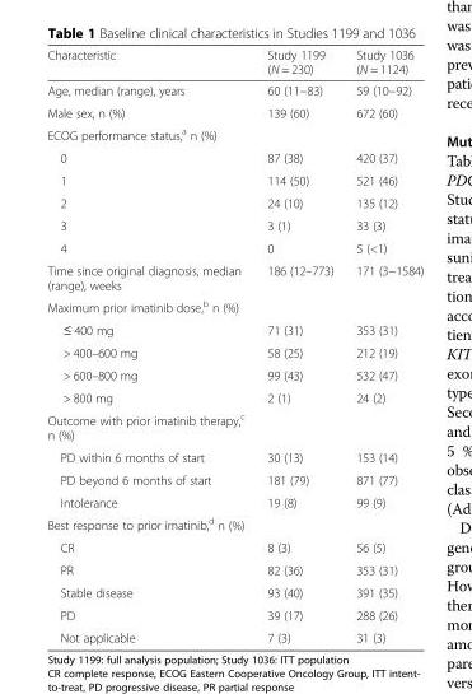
<table><thead><tr><td>Characteristic</td><td>Study 1199 (N = 230)</td><td>Study 1036 (N = 1124)</td></tr></thead><tbody><tr><td>Age, median (range), years</td><td>60 (11−83)</td><td>59 (10−92)</td></tr><tr><td>Male sex, n (%)</td><td>139 (60)</td><td>672 (60)</td></tr><tr><td colspan="3">ECOG performance status,<sup>a</sup> n (%)</td></tr><tr><td>0</td><td>87 (38)</td><td>420 (37)</td></tr><tr><td>1</td><td>114 (50)</td><td>521 (46)</td></tr><tr><td>2</td><td>24 (10)</td><td>135 (12)</td></tr><tr><td>3</td><td>3 (1)</td><td>33 (3)</td></tr><tr><td>4</td><td>0</td><td>5 (&lt;1)</td></tr><tr><td>Time since original diagnosis, median (range), weeks</td><td>186 (12–773)</td><td>171 (3−1584)</td></tr><tr><td colspan="3">Maximum prior imatinib dose,<sup>b</sup> n (%)</td></tr><tr><td>≤ 400 mg</td><td>71 (31)</td><td>353 (31)</td></tr><tr><td>&gt; 400–600 mg</td><td>58 (25)</td><td>212 (19)</td></tr><tr><td>&gt; 600–800 mg</td><td>99 (43)</td><td>532 (47)</td></tr><tr><td>&gt; 800 mg</td><td>2 (1)</td><td>24 (2)</td></tr><tr><td colspan="3">Outcome with prior imatinib therapy,<sup>c</sup> n (%)</td></tr><tr><td>PD within 6 months of start</td><td>30 (13)</td><td>153 (14)</td></tr><tr><td>PD beyond 6 months of start</td><td>181 (79)</td><td>871 (77)</td></tr><tr><td>Intolerance</td><td>19 (8)</td><td>99 (9)</td></tr><tr><td colspan="3">Best response to prior imatinib,<sup>d</sup> n (%)</td></tr><tr><td>CR</td><td>8 (3)</td><td>56 (5)</td></tr><tr><td>PR</td><td>82 (36)</td><td>353 (31)</td></tr><tr><td>Stable disease</td><td>93 (40)</td><td>391 (35)</td></tr><tr><td>PD</td><td>39 (17)</td><td>288 (26)</td></tr><tr><td>Not applicable</td><td>7 (3)</td><td>31 (3)</td></tr></tbody></table>